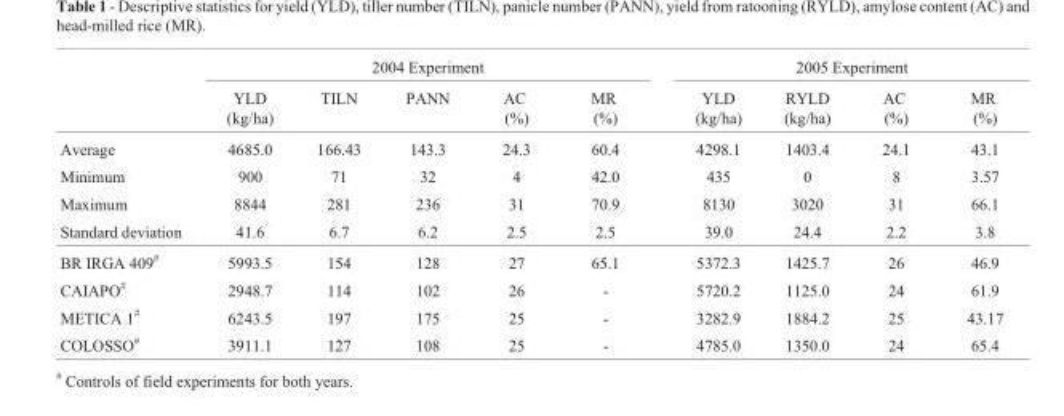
<table><thead><tr><td rowspan="2"></td><td colspan="5">2004 Experiment</td><td colspan="4">2005 Experiment</td></tr><tr><td>YLD (kg/ha)</td><td>TILN</td><td>PANN</td><td>AC (%)</td><td>MR (%)</td><td>YLD (kg/ha)</td><td>RYLD (kg/ha)</td><td>AC (%)</td><td>MR (%)</td></tr></thead><tbody><tr><td>Average</td><td>4685.0</td><td>166.43</td><td>143.3</td><td>24.3</td><td>60.4</td><td>4298.1</td><td>1403.4</td><td>24.1</td><td>43.1</td></tr><tr><td>Minimum</td><td>900</td><td>71</td><td>32</td><td>4</td><td>42.0</td><td>435</td><td>0</td><td>8</td><td>3.57</td></tr><tr><td>Maximum</td><td>8844</td><td>281</td><td>236</td><td>31</td><td>70.9</td><td>8130</td><td>3020</td><td>31</td><td>66.1</td></tr><tr><td>Standard deviation</td><td>41.6</td><td>6.7</td><td>6.2</td><td>2.5</td><td>2.5</td><td>39.0</td><td>24.4</td><td>2.2</td><td>3.8</td></tr><tr><td>BR IRGA 409<sup>#</sup></td><td>5993.5</td><td>154</td><td>128</td><td>27</td><td>65.1</td><td>5372.3</td><td>1425.7</td><td>26</td><td>46.9</td></tr><tr><td>CAIAPO<sup>#</sup></td><td>2948.7</td><td>114</td><td>102</td><td>26</td><td>-</td><td>5720.2</td><td>1125.0</td><td>24</td><td>61.9</td></tr><tr><td>METICA 1<sup>#</sup></td><td>6243.5</td><td>197</td><td>175</td><td>25</td><td>-</td><td>3282.9</td><td>1884.2</td><td>25</td><td>43.17</td></tr><tr><td>COLOSSO<sup>#</sup></td><td>3911.1</td><td>127</td><td>108</td><td>25</td><td>-</td><td>4785.0</td><td>1350.0</td><td>24</td><td>65.4</td></tr></tbody></table>